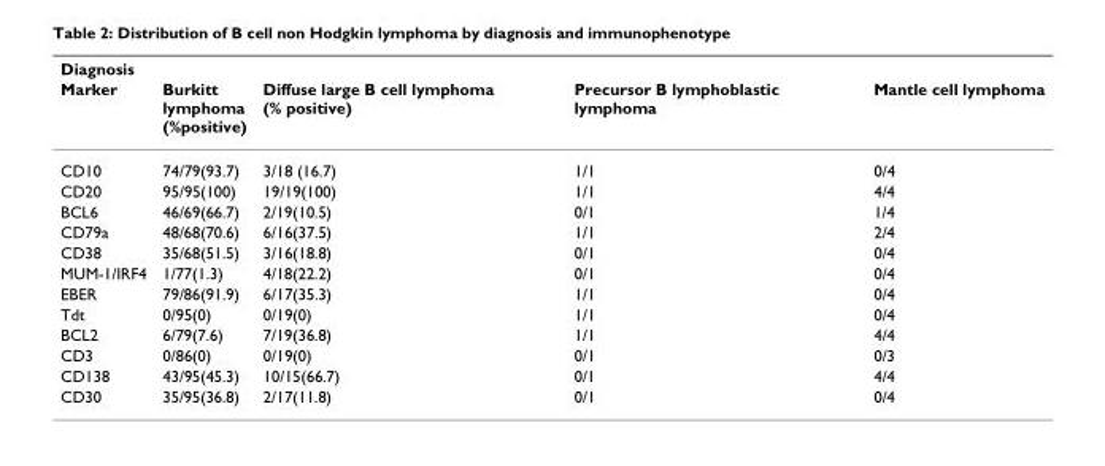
<table><thead><tr><td rowspan="2">Diagnosis Marker</td><td rowspan="2">Burkitt lymphoma (%positive)</td><td rowspan="2">Diffuse large B cell lymphoma (% positive)</td><td rowspan="2">Precursor B lymphoblastic lymphoma</td><td rowspan="2">Mantle cell lymphoma</td></tr><tr></tr></thead><tbody><tr><td>CD10</td><td>74/79(93.7)</td><td>3/18 (16.7)</td><td>1/1</td><td>0/4</td></tr><tr><td>CD20</td><td>95/95(100)</td><td>19/19(100)</td><td>1/1</td><td>4/4</td></tr><tr><td>BCL6</td><td>46/69(66.7)</td><td>2/19(10.5)</td><td>0/1</td><td>1/4</td></tr><tr><td>CD79a</td><td>48/68(70.6)</td><td>6/16(37.5)</td><td>1/1</td><td>2/4</td></tr><tr><td>CD38</td><td>35/68(51.5)</td><td>3/16(18.8)</td><td>0/1</td><td>0/4</td></tr><tr><td>MUM-1/IRF4</td><td>1/77(1.3)</td><td>4/18(22.2)</td><td>0/1</td><td>0/4</td></tr><tr><td>EBER</td><td>79/86(91.9)</td><td>6/17(35.3)</td><td>1/1</td><td>0/4</td></tr><tr><td>Tdt</td><td>0/95(0)</td><td>0/19(0)</td><td>1/1</td><td>0/4</td></tr><tr><td>BCL2</td><td>6/79(7.6)</td><td>7/19(36.8)</td><td>1/1</td><td>4/4</td></tr><tr><td>CD3</td><td>0/86(0)</td><td>0/19(0)</td><td>0/1</td><td>0/3</td></tr><tr><td>CD138</td><td>43/95(45.3)</td><td>10/15(66.7)</td><td>0/1</td><td>4/4</td></tr><tr><td>CD30</td><td>35/95(36.8)</td><td>2/17(11.8)</td><td>0/1</td><td>0/4</td></tr></tbody></table>